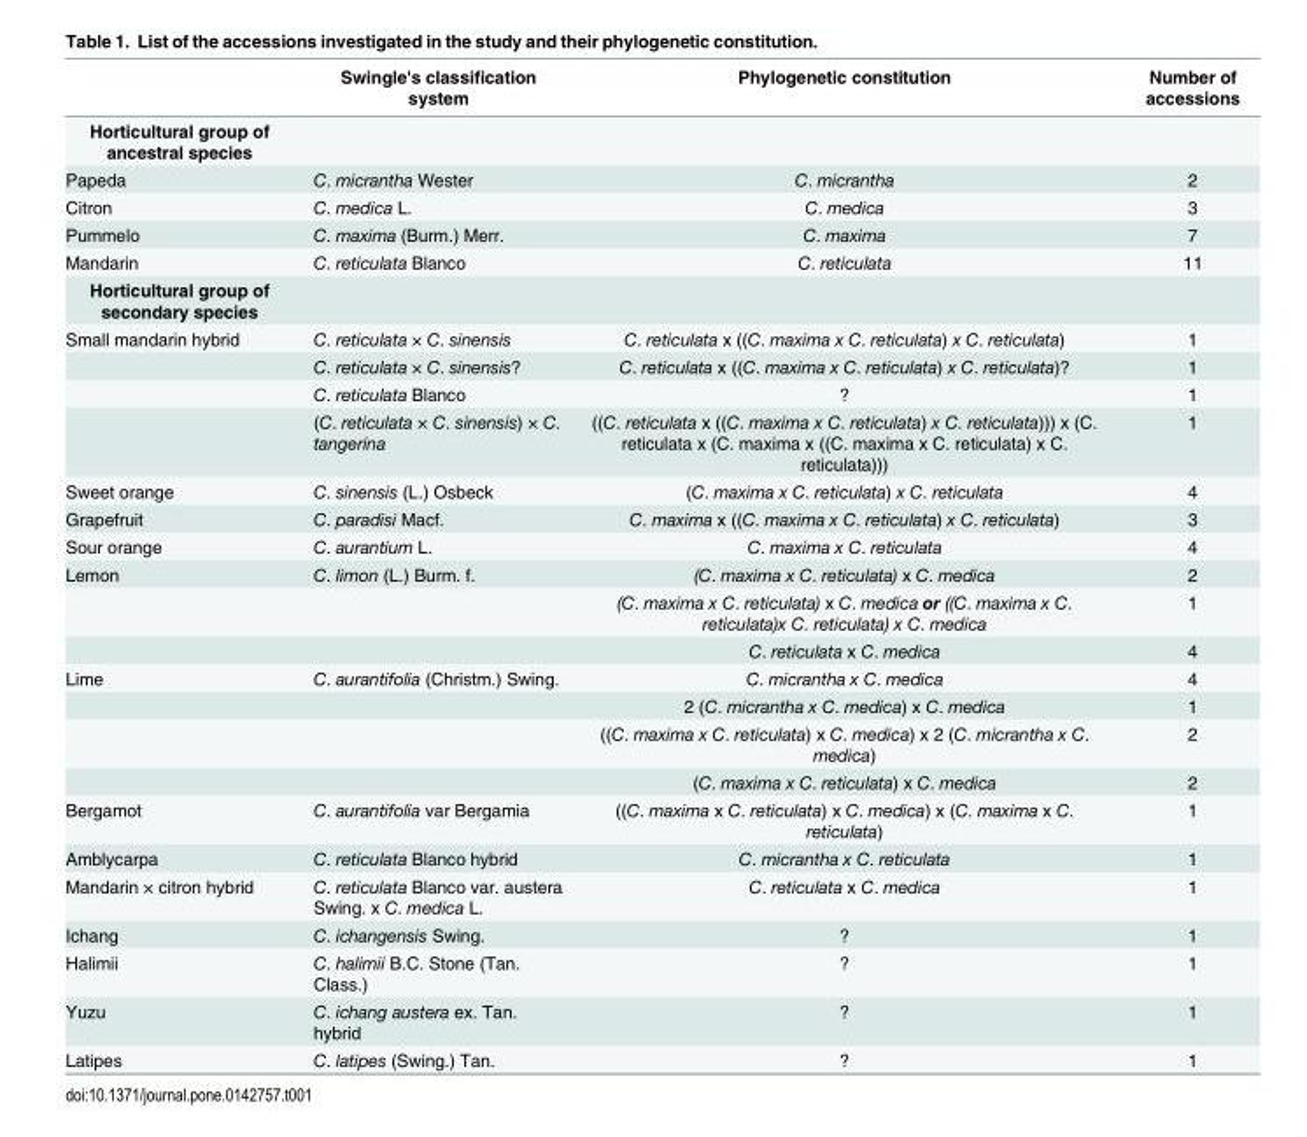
<table><thead><tr><td></td><td>Swingle&#x27;s classification system</td><td>Phylogenetic constitution</td><td>Number of accessions</td></tr></thead><tbody><tr><td colspan="4">Horticultural group of ancestral species</td></tr><tr><td>Papeda</td><td>C. micrantha Wester</td><td>C. micrantha</td><td>2</td></tr><tr><td>Citron</td><td>C. medica L.</td><td>C. medica</td><td>3</td></tr><tr><td>Pummelo</td><td>C. maxima (Burm.) Merr.</td><td>C. maxima</td><td>7</td></tr><tr><td>Mandarin</td><td>C. reticulata Blanco</td><td>C. reticulata</td><td>11</td></tr><tr><td colspan="4">Horticultural group of secondary species</td></tr><tr><td rowspan="4">Small mandarin hybrid</td><td>C. reticulata × C. sinensis</td><td>C. reticulata x ((C. maxima x C. reticulata) x C. reticulata)</td><td>1</td></tr><tr><td>C. reticulata × C. sinensis?</td><td>C. reticulata x ((C. maxima x C. reticulata) x C. reticulata)?</td><td>1</td></tr><tr><td>C. reticulata Blanco</td><td>?</td><td>1</td></tr><tr><td>(C. reticulata × C. sinensis) × C. tangerina</td><td>((C. reticulata x ((C. maxima x C. reticulata) x C. reticulata))) x (C. reticulata x (C. maxima x ((C. maxima x C. reticulata) x C. reticulata)))</td><td>1</td></tr><tr><td>Sweet orange</td><td>C. sinensis (L.) Osbeck</td><td>(C. maxima x C. reticulata) x C. reticulata</td><td>4</td></tr><tr><td>Grapefruit</td><td>C. paradisi Macf.</td><td>C. maxima x ((C. maxima x C. reticulata) x C. reticulata)</td><td>3</td></tr><tr><td>Sour orange</td><td>C. aurantium L.</td><td>C. maxima x C. reticulata</td><td>4</td></tr><tr><td rowspan="3">Lemon</td><td>C. limon (L.) Burm. f.</td><td>(C. maxima x C. reticulata) x C. medica</td><td>2</td></tr><tr><td></td><td>(C. maxima x C. reticulata) x C. medica or ((C. maxima x C. reticulata)x C. reticulata) x C. medica</td><td>1</td></tr><tr><td></td><td>C. reticulata x C. medica</td><td>4</td></tr><tr><td rowspan="4">Lime</td><td>C. aurantifolia (Christm.) Swing.</td><td>C. micrantha x C. medica</td><td>4</td></tr><tr><td></td><td>2 (C. micrantha x C. medica) x C. medica</td><td>1</td></tr><tr><td></td><td>((C. maxima x C. reticulata) x C. medica) x 2 (C. micrantha x C. medica)</td><td>2</td></tr><tr><td></td><td>(C. maxima x C. reticulata) x C. medica</td><td>2</td></tr><tr><td>Bergamot</td><td>C. aurantifolia var Bergamia</td><td>((C. maxima x C. reticulata) x C. medica) x (C. maxima x C. reticulata)</td><td>1</td></tr><tr><td>Amblycarpa</td><td>C. reticulata Blanco hybrid</td><td>C. micrantha x C. reticulata</td><td>1</td></tr><tr><td>Mandarin × citron hybrid</td><td>C. reticulata Blanco var. austera Swing. x C. medica L.</td><td>C. reticulata x C. medica</td><td>1</td></tr><tr><td>Ichang</td><td>C. ichangensis Swing.</td><td>?</td><td>1</td></tr><tr><td>Halimii</td><td>C. halimii B.C. Stone (Tan. Class.)</td><td>?</td><td>1</td></tr><tr><td>Yuzu</td><td>C. ichang austera ex. Tan. hybrid</td><td>?</td><td>1</td></tr><tr><td>Latipes</td><td>C. latipes (Swing.) Tan.</td><td>?</td><td>1</td></tr></tbody></table>